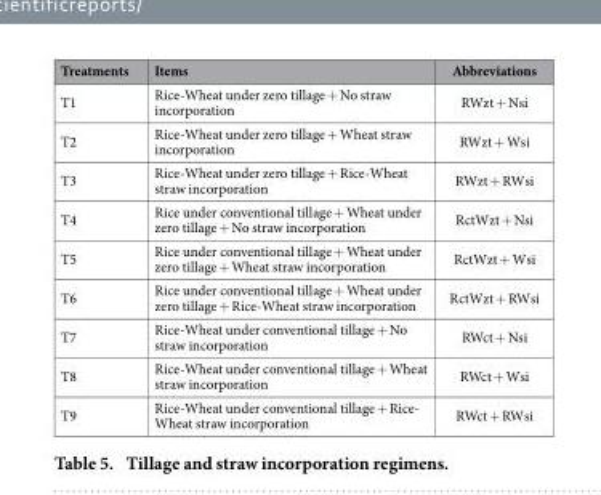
<table><thead><tr><td>Treatments</td><td>Items</td><td>Abbreviations</td></tr></thead><tbody><tr><td>T1</td><td>Rice-Wheat under zero tillage + No straw incorporation</td><td>RWzt + Nsi</td></tr><tr><td>T2</td><td>Rice-Wheat under zero tillage + Wheat straw incorporation</td><td>RWzt + Wsi</td></tr><tr><td>T3</td><td>Rice-Wheat under zero tillage + Rice-Wheat straw incorporation</td><td>RWzt + RWsi</td></tr><tr><td>T4</td><td>Rice under conventional tillage + Wheat under zero tillage + No straw incorporation</td><td>RctWzt + Nsi</td></tr><tr><td>T5</td><td>Rice under conventional tillage + Wheat under zero tillage + Wheat straw incorporation</td><td>RctWzt + Wsi</td></tr><tr><td>T6</td><td>Rice under conventional tillage + Wheat under zero tillage + Rice-Wheat straw incorporation</td><td>RctWzt + RWsi</td></tr><tr><td>T7</td><td>Rice-Wheat under conventional tillage + No straw incorporation</td><td>RWct + Nsi</td></tr><tr><td>T8</td><td>Rice-Wheat under conventional tillage + Wheat straw incorporation</td><td>RWct + Wsi</td></tr><tr><td>T9</td><td>Rice-Wheat under conventional tillage + Rice- Wheat straw incorporation</td><td>RWct + RWsi</td></tr></tbody></table>